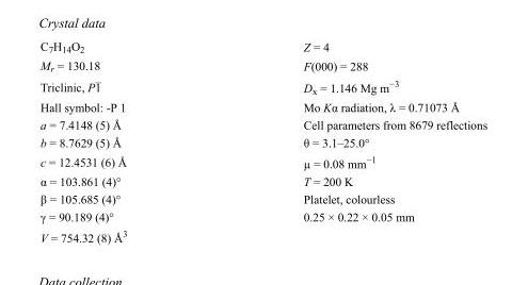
<table><tbody><tr><td>C<sub>7</sub>H<sub>14</sub>O<sub>2</sub></td><td>Z = 4</td></tr><tr><td>M<sub>r</sub> = 130.18</td><td>F(000) = 288</td></tr><tr><td>Triclinic, P1</td><td>D<sub>x</sub> = 1.146 Mg m<sup>−3</sup></td></tr><tr><td>Hall symbol: -P 1</td><td>Mo Kα radiation, λ = 0.71073 Å</td></tr><tr><td>a = 7.4148 (5) Å</td><td>Cell parameters from 8679 reflections</td></tr><tr><td>b = 8.7629 (5) Å</td><td>θ = 3.1–25.0°</td></tr><tr><td>c = 12.4531 (6) Å</td><td>µ = 0.08 mm<sup>−1</sup></td></tr><tr><td>α = 103.861 (4)°</td><td>T = 200 K</td></tr><tr><td>β = 105.685 (4)°</td><td>Platelet, colourless</td></tr><tr><td>γ = 90.189 (4)°</td><td>0.25 × 0.22 × 0.05 mm</td></tr><tr><td>V = 754.32 (8) Å<sup>3</sup></td><td></td></tr></tbody></table>